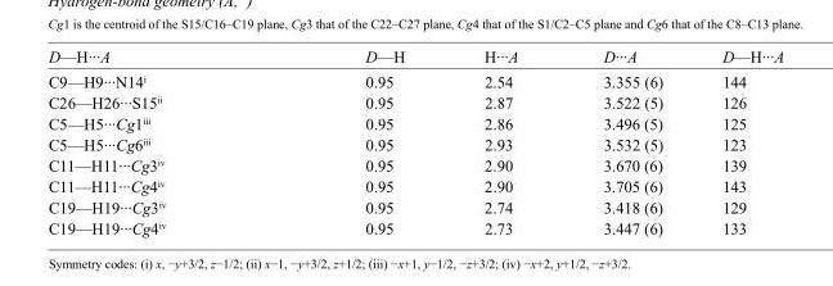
<table><tbody><tr><td>D—H···A</td><td>D—H</td><td>H···A</td><td>D···A</td><td>D—H···A</td></tr><tr><td>C9—H9···N14<sup>i</sup></td><td>0.95</td><td>2.54</td><td>3.355 (6)</td><td>144</td></tr><tr><td>C26—H26···S15<sup>ii</sup></td><td>0.95</td><td>2.87</td><td>3.522 (5)</td><td>126</td></tr><tr><td>C5—H5···Cg1<sup>iii</sup></td><td>0.95</td><td>2.86</td><td>3.496 (5)</td><td>125</td></tr><tr><td>C5—H5···Cg6<sup>iii</sup></td><td>0.95</td><td>2.93</td><td>3.532 (5)</td><td>123</td></tr><tr><td>C11—H11···Cg3<sup>iv</sup></td><td>0.95</td><td>2.90</td><td>3.670 (6)</td><td>139</td></tr><tr><td>C11—H11···Cg4<sup>iv</sup></td><td>0.95</td><td>2.90</td><td>3.705 (6)</td><td>143</td></tr><tr><td>C19—H19···Cg3<sup>iv</sup></td><td>0.95</td><td>2.74</td><td>3.418 (6)</td><td>129</td></tr><tr><td>C19—H19···Cg4<sup>iv</sup></td><td>0.95</td><td>2.73</td><td>3.447 (6)</td><td>133</td></tr></tbody></table>